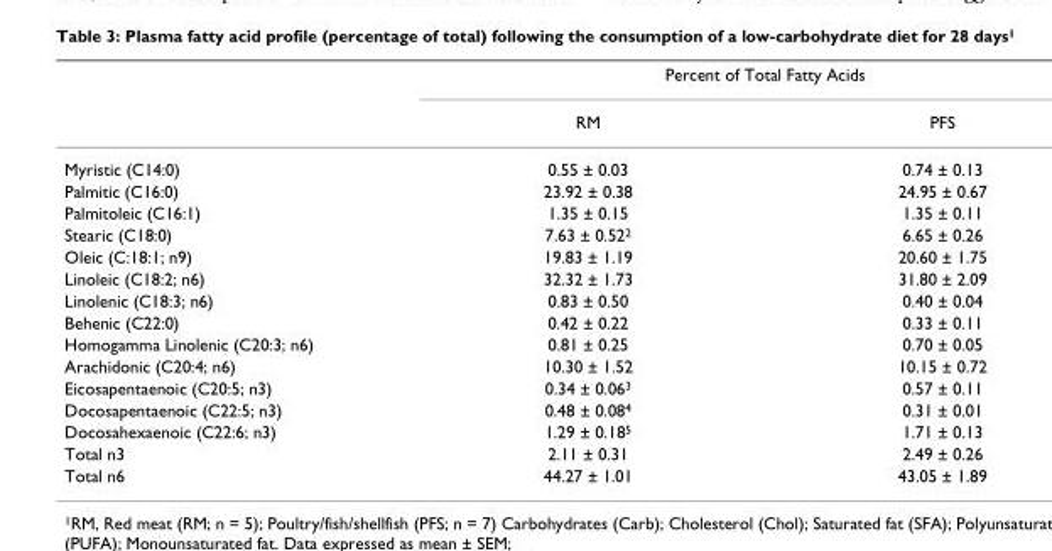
<table><thead><tr><td rowspan="2"></td><td colspan="2">Percent of Total Fatty Acids</td></tr><tr><td>RM</td><td>PFS</td></tr></thead><tbody><tr><td>Myristic (C14:0)</td><td>0.55 ± 0.03</td><td>0.74 ± 0.13</td></tr><tr><td>Palmitic (C16:0)</td><td>23.92 ± 0.38</td><td>24.95 ± 0.67</td></tr><tr><td>Palmitoleic (C16:1)</td><td>1.35 ± 0.15</td><td>1.35 ± 0.11</td></tr><tr><td>Stearic (C18:0)</td><td>7.63 ± 0.52<sup>2</sup></td><td>6.65 ± 0.26</td></tr><tr><td>Oleic (C:18:1; n9)</td><td>19.83 ± 1.19</td><td>20.60 ± 1.75</td></tr><tr><td>Linoleic (C18:2; n6)</td><td>32.32 ± 1.73</td><td>31.80 ± 2.09</td></tr><tr><td>Linolenic (C18:3; n6)</td><td>0.83 ± 0.50</td><td>0.40 ± 0.04</td></tr><tr><td>Behenic (C22:0)</td><td>0.42 ± 0.22</td><td>0.33 ± 0.11</td></tr><tr><td>Homogamma Linolenic (C20:3; n6)</td><td>0.81 ± 0.25</td><td>0.70 ± 0.05</td></tr><tr><td>Arachidonic (C20:4; n6)</td><td>10.30 ± 1.52</td><td>10.15 ± 0.72</td></tr><tr><td>Eicosapentaenoic (C20:5; n3)</td><td>0.34 ± 0.06<sup>3</sup></td><td>0.57 ± 0.11</td></tr><tr><td>Docosapentaenoic (C22:5; n3)</td><td>0.48 ± 0.08<sup>4</sup></td><td>0.31 ± 0.01</td></tr><tr><td>Docosahexaenoic (C22:6; n3)</td><td>1.29 ± 0.18<sup>5</sup></td><td>1.71 ± 0.13</td></tr><tr><td>Total n3</td><td>2.11 ± 0.31</td><td>2.49 ± 0.26</td></tr><tr><td>Total n6</td><td>44.27 ± 1.01</td><td>43.05 ± 1.89</td></tr></tbody></table>